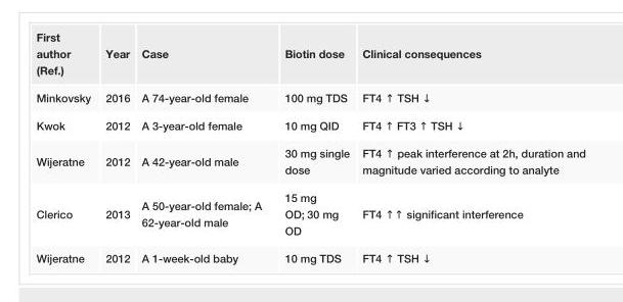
<table><tbody><tr><td>First author (Ref.)</td><td>Year</td><td>Case</td><td>Biotin dose</td><td>Clinical consequences</td></tr><tr><td>Minkovsky</td><td>2016</td><td>A 74-year-old female</td><td>100 mg TDS</td><td>FT4 ↑ TSH ↓</td></tr><tr><td>Kwok</td><td>2012</td><td>A 3-year-old female</td><td>10 mg QID</td><td>FT4 ↑ FT3 ↑ TSH ↓</td></tr><tr><td>Wijeratne</td><td>2012</td><td>A 42-year-old male</td><td>30 mg single dose</td><td>FT4 ↑ peak interference at 2h, duration and magnitude varied according to analyte</td></tr><tr><td>Clerico</td><td>2013</td><td>A 50-year-old female; A 62-year-old male</td><td>15 mg OD; 30 mg OD</td><td>FT4 ↑↑ significant interference</td></tr><tr><td>Wijeratne</td><td>2012</td><td>A 1-week-old baby</td><td>10 mg TDS</td><td>FT4 ↑ TSH ↓</td></tr></tbody></table>